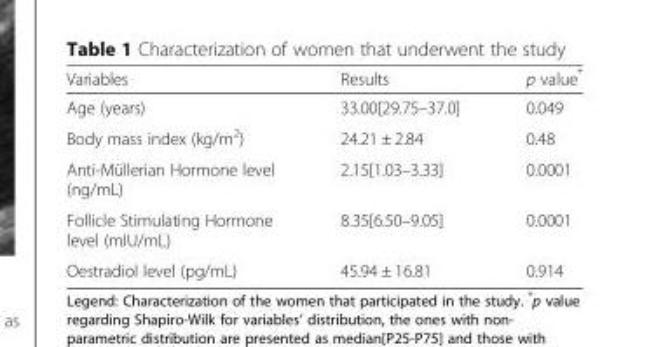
<table><thead><tr><td>Variables</td><td>Results</td><td>p value*</td></tr></thead><tbody><tr><td>Age (years)</td><td>33.00[29.75–37.0]</td><td>0.049</td></tr><tr><td>Body mass index (kg/m<sup>2</sup>)</td><td>24.21 ± 2.84</td><td>0.48</td></tr><tr><td>Anti-Müllerian Hormone level (ng/mL)</td><td>2.15[1.03–3.33]</td><td>0.0001</td></tr><tr><td>Follicle Stimulating Hormone level (mIU/mL)</td><td>8.35[6.50–9.05]</td><td>0.0001</td></tr><tr><td>Oestradiol level (pg/mL)</td><td>45.94 ± 16.81</td><td>0.914</td></tr></tbody></table>